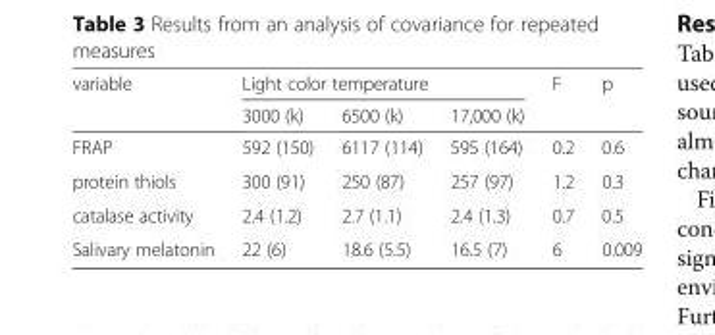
<table><thead><tr><td rowspan="2">variable</td><td colspan="3">Light color temperature</td><td rowspan="2">F</td><td rowspan="2">p</td></tr><tr><td>3000 (k)</td><td>6500 (k)</td><td>17,000 (k)</td></tr></thead><tbody><tr><td>FRAP</td><td>592 (150)</td><td>6117 (114)</td><td>595 (164)</td><td>0.2</td><td>0.6</td></tr><tr><td>protein thiols</td><td>300 (91)</td><td>250 (87)</td><td>257 (97)</td><td>1.2</td><td>0.3</td></tr><tr><td>catalase activity</td><td>2.4 (1.2)</td><td>2.7 (1.1)</td><td>2.4 (1.3)</td><td>0.7</td><td>0.5</td></tr><tr><td>Salivary melatonin</td><td>22 (6)</td><td>18.6 (5.5)</td><td>16.5 (7)</td><td>6</td><td>0.009</td></tr></tbody></table>